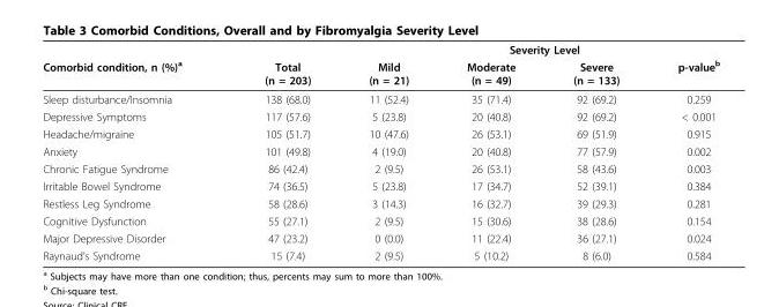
<table><thead><tr><td rowspan="2">Comorbid condition, n (%)<sup>a</sup></td><td rowspan="2">Total (n = 203)</td><td colspan="4">Severity Level</td></tr><tr><td>Mild (n = 21)</td><td>Moderate (n = 49)</td><td>Severe (n = 133)</td><td>p-value<sup>b</sup></td></tr></thead><tbody><tr><td>Sleep disturbance/Insomnia</td><td>138 (68.0)</td><td>11 (52.4)</td><td>35 (71.4)</td><td>92 (69.2)</td><td>0.259</td></tr><tr><td>Depressive Symptoms</td><td>117 (57.6)</td><td>5 (23.8)</td><td>20 (40.8)</td><td>92 (69.2)</td><td>&lt; 0.001</td></tr><tr><td>Headache/migraine</td><td>105 (51.7)</td><td>10 (47.6)</td><td>26 (53.1)</td><td>69 (51.9)</td><td>0.915</td></tr><tr><td>Anxiety</td><td>101 (49.8)</td><td>4 (19.0)</td><td>20 (40.8)</td><td>77 (57.9)</td><td>0.002</td></tr><tr><td>Chronic Fatigue Syndrome</td><td>86 (42.4)</td><td>2 (9.5)</td><td>26 (53.1)</td><td>58 (43.6)</td><td>0.003</td></tr><tr><td>Irritable Bowel Syndrome</td><td>74 (36.5)</td><td>5 (23.8)</td><td>17 (34.7)</td><td>52 (39.1)</td><td>0.384</td></tr><tr><td>Restless Leg Syndrome</td><td>58 (28.6)</td><td>3 (14.3)</td><td>16 (32.7)</td><td>39 (29.3)</td><td>0.281</td></tr><tr><td>Cognitive Dysfunction</td><td>55 (27.1)</td><td>2 (9.5)</td><td>15 (30.6)</td><td>38 (28.6)</td><td>0.154</td></tr><tr><td>Major Depressive Disorder</td><td>47 (23.2)</td><td>0 (0.0)</td><td>11 (22.4)</td><td>36 (27.1)</td><td>0.024</td></tr><tr><td>Raynaud’s Syndrome</td><td>15 (7.4)</td><td>2 (9.5)</td><td>5 (10.2)</td><td>8 (6.0)</td><td>0.584</td></tr></tbody></table>